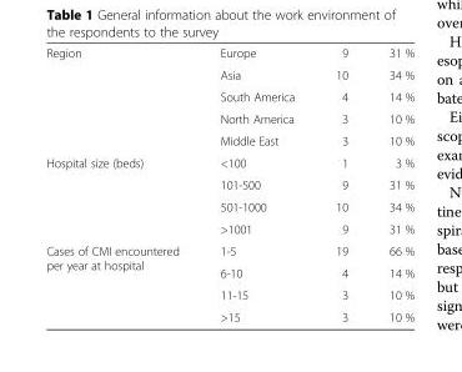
<table><tbody><tr><td rowspan="5">Region</td><td>Europe</td><td>9</td><td>31 %</td></tr><tr><td>Asia</td><td>10</td><td>34 %</td></tr><tr><td>South America</td><td>4</td><td>14 %</td></tr><tr><td>North America</td><td>3</td><td>10 %</td></tr><tr><td>Middle East</td><td>3</td><td>10 %</td></tr><tr><td rowspan="4">Hospital size (beds)</td><td>&lt;100</td><td>1</td><td>3 %</td></tr><tr><td>101-500</td><td>9</td><td>31 %</td></tr><tr><td>501-1000</td><td>10</td><td>34 %</td></tr><tr><td>&gt;1001</td><td>9</td><td>31 %</td></tr><tr><td rowspan="4">Cases of CMI encountered per year at hospital</td><td>1-5</td><td>19</td><td>66 %</td></tr><tr><td>6-10</td><td>4</td><td>14 %</td></tr><tr><td>11-15</td><td>3</td><td>10 %</td></tr><tr><td>&gt;15</td><td>3</td><td>10 %</td></tr></tbody></table>